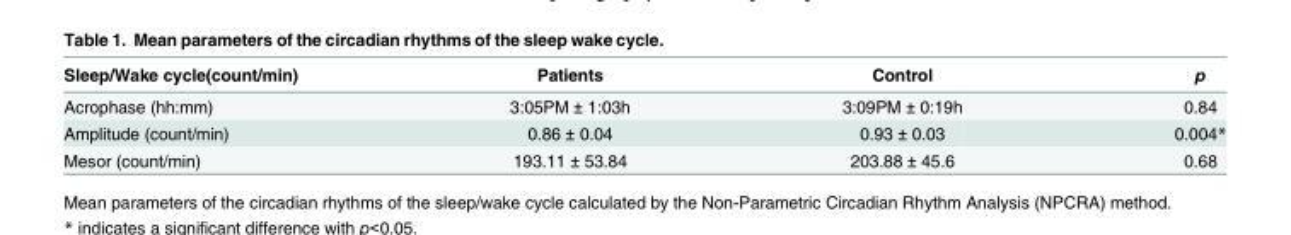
<table><thead><tr><td>Sleep/Wake cycle(count/min)</td><td>Patients</td><td>Control</td><td>p</td></tr></thead><tbody><tr><td>Acrophase (hh:mm)</td><td>3:05PM ± 1:03h</td><td>3:09PM ± 0:19h</td><td>0.84</td></tr><tr><td>Amplitude (count/min)</td><td>0.86 ± 0.04</td><td>0.93 ± 0.03</td><td>0.004*</td></tr><tr><td>Mesor (count/min)</td><td>193.11 ± 53.84</td><td>203.88 ± 45.6</td><td>0.68</td></tr></tbody></table>